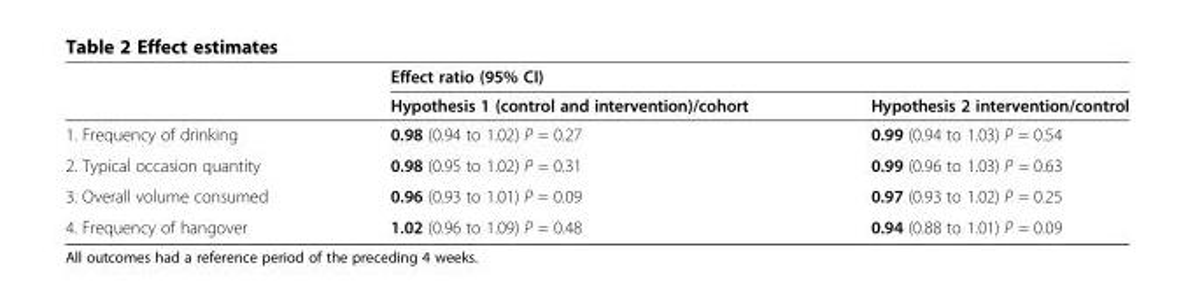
<table><thead><tr><td rowspan="2"></td><td colspan="2">Effect ratio (95% CI)</td></tr><tr><td>Hypothesis 1 (control and intervention)/cohort</td><td>Hypothesis 2 intervention/control</td></tr></thead><tbody><tr><td>1. Frequency of drinking</td><td>0.98 (0.94 to 1.02) P = 0.27</td><td>0.99 (0.94 to 1.03) P = 0.54</td></tr><tr><td>2. Typical occasion quantity</td><td>0.98 (0.95 to 1.02) P = 0.31</td><td>0.99 (0.96 to 1.03) P = 0.63</td></tr><tr><td>3. Overall volume consumed</td><td>0.96 (0.93 to 1.01) P = 0.09</td><td>0.97 (0.93 to 1.02) P = 0.25</td></tr><tr><td>4. Frequency of hangover</td><td>1.02 (0.96 to 1.09) P = 0.48</td><td>0.94 (0.88 to 1.01) P = 0.09</td></tr></tbody></table>